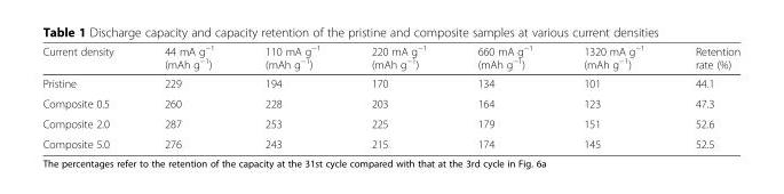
<table><thead><tr><td>Current density</td><td>44 mA g<sup>−1</sup> (mAh g<sup>−1</sup>)</td><td>110 mA g<sup>−1</sup> (mAh g<sup>−1</sup>)</td><td>220 mA g<sup>−1</sup> (mAh g<sup>−1</sup>)</td><td>660 mA g<sup>−1</sup> (mAh g<sup>−1</sup>)</td><td>1320 mA g<sup>−1</sup> (mAh g<sup>−1</sup>)</td><td>Retention rate (%)</td></tr></thead><tbody><tr><td>Pristine</td><td>229</td><td>194</td><td>170</td><td>134</td><td>101</td><td>44.1</td></tr><tr><td>Composite 0.5</td><td>260</td><td>228</td><td>203</td><td>164</td><td>123</td><td>47.3</td></tr><tr><td>Composite 2.0</td><td>287</td><td>253</td><td>225</td><td>179</td><td>151</td><td>52.6</td></tr><tr><td>Composite 5.0</td><td>276</td><td>243</td><td>215</td><td>174</td><td>145</td><td>52.5</td></tr></tbody></table>